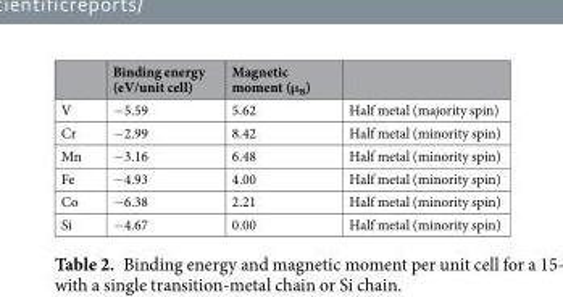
<table><thead><tr><td></td><td>Binding energy (eV/unit cell)</td><td>Magnetic moment (μ<sub>B</sub>)</td><td></td></tr></thead><tbody><tr><td>V</td><td>−5.59</td><td>5.62</td><td>Half metal (majority spin)</td></tr><tr><td>Cr</td><td>−2.99</td><td>8.42</td><td>Half metal (minority spin)</td></tr><tr><td>Mn</td><td>−3.16</td><td>6.48</td><td>Half metal (minority spin)</td></tr><tr><td>Fe</td><td>−4.93</td><td>4.00</td><td>Half metal (minority spin)</td></tr><tr><td>Co</td><td>−6.38</td><td>2.21</td><td>Half metal (minority spin)</td></tr><tr><td>Si</td><td>−4.67</td><td>0.00</td><td>Half metal (minority spin)</td></tr></tbody></table>